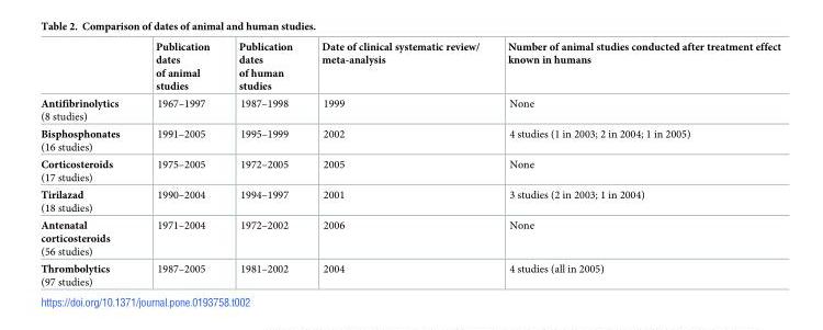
<table><thead><tr><td></td><td>Publication dates of animal studies</td><td>Publication dates of human studies</td><td>Date of clinical systematic review/ meta-analysis</td><td>Number of animal studies conducted after treatment effect known in humans</td></tr></thead><tbody><tr><td>Antifibrinolytics (8 studies)</td><td>1967–1997</td><td>1987–1998</td><td>1999</td><td>None</td></tr><tr><td>Bisphosphonates (16 studies)</td><td>1991–2005</td><td>1995–1999</td><td>2002</td><td>4 studies (1 in 2003; 2 in 2004; 1 in 2005)</td></tr><tr><td>Corticosteroids (17 studies)</td><td>1975–2005</td><td>1972–2005</td><td>2005</td><td>None</td></tr><tr><td>Tirilazad (18 studies)</td><td>1990–2004</td><td>1994–1997</td><td>2001</td><td>3 studies (2 in 2003; 1 in 2004)</td></tr><tr><td>Antenatal corticosteroids (56 studies)</td><td>1971–2004</td><td>1972–2002</td><td>2006</td><td>None</td></tr><tr><td>Thrombolytics (97 studies)</td><td>1987–2005</td><td>1981–2002</td><td>2004</td><td>4 studies (all in 2005)</td></tr></tbody></table>